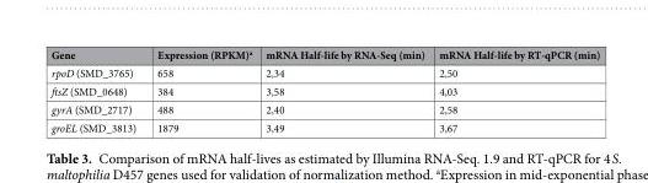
<table><thead><tr><td>Gene</td><td>Expression (RPKM)<sup>a</sup></td><td>mRNA Half-life by RNA-Seq (min)</td><td>mRNA Half-life by RT-qPCR (min)</td></tr></thead><tbody><tr><td>rpoD (SMD_3765)</td><td>658</td><td>2,34</td><td>2,50</td></tr><tr><td>ftsZ (SMD_0648)</td><td>384</td><td>3,58</td><td>4,03</td></tr><tr><td>gyrA (SMD_2717)</td><td>488</td><td>2,40</td><td>2,58</td></tr><tr><td>groEL (SMD_3813)</td><td>1879</td><td>3,49</td><td>3,67</td></tr></tbody></table>